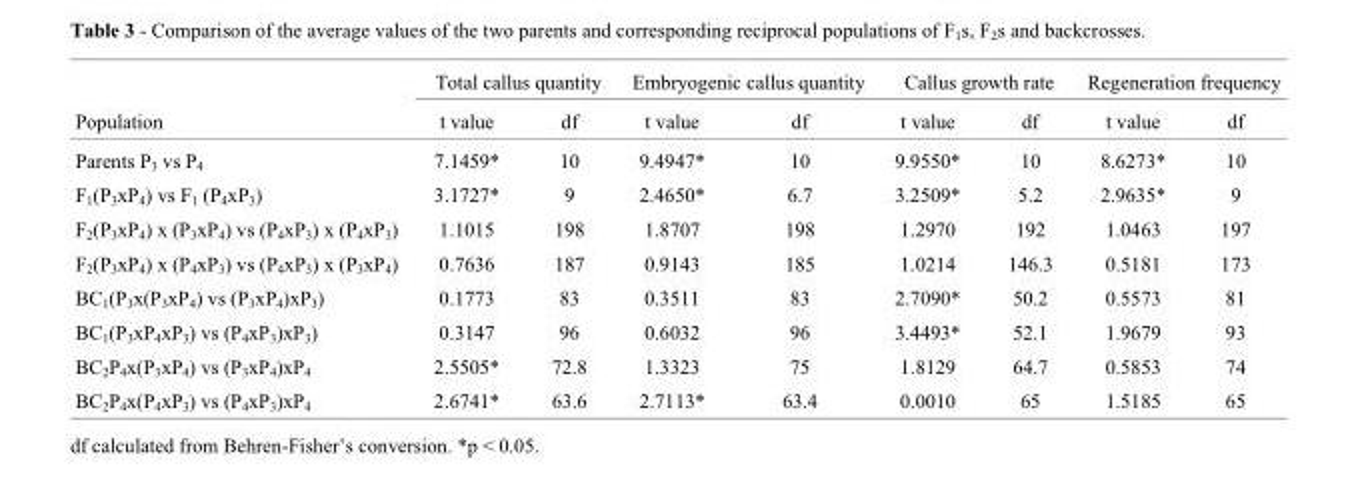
<table><thead><tr><td rowspan="2">Population</td><td colspan="2">Total callus quantity</td><td colspan="2">Embryogenic callus quantity</td><td colspan="2">Callus growth rate</td><td colspan="2">Regeneration frequency</td></tr><tr><td>t value</td><td>df</td><td>t value</td><td>df</td><td>t value</td><td>df</td><td>t value</td><td>df</td></tr></thead><tbody><tr><td>Parents P<sub>3</sub> vs P<sub>4</sub></td><td>7.1459*</td><td>10</td><td>9.4947*</td><td>10</td><td>9.9550*</td><td>10</td><td>8.6273*</td><td>10</td></tr><tr><td>F<sub>1</sub>(P<sub>3</sub>xP<sub>4</sub>) vs F<sub>1</sub> (P<sub>4</sub>xP<sub>3</sub>)</td><td>3.1727*</td><td>9</td><td>2.4650*</td><td>6.7</td><td>3.2509*</td><td>5.2</td><td>2.9635*</td><td>9</td></tr><tr><td>F<sub>2</sub>(P<sub>3</sub>xP<sub>4</sub>) x (P<sub>3</sub>xP<sub>4</sub>) vs (P<sub>4</sub>xP<sub>3</sub>) x (P<sub>4</sub>xP<sub>3</sub>)</td><td>1.1015</td><td>198</td><td>1.8707</td><td>198</td><td>1.2970</td><td>192</td><td>1.0463</td><td>197</td></tr><tr><td>F<sub>2</sub>(P<sub>3</sub>xP<sub>4</sub>) x (P<sub>4</sub>xP<sub>3</sub>) vs (P<sub>4</sub>xP<sub>3</sub>) x (P<sub>3</sub>xP<sub>4</sub>)</td><td>0.7636</td><td>187</td><td>0.9143</td><td>185</td><td>1.0214</td><td>146.3</td><td>0.5181</td><td>173</td></tr><tr><td>BC<sub>1</sub>(P<sub>3</sub>x(P<sub>3</sub>xP<sub>4</sub>) vs (P<sub>3</sub>xP<sub>4</sub>)xP<sub>3</sub>)</td><td>0.1773</td><td>83</td><td>0.3511</td><td>83</td><td>2.7090*</td><td>50.2</td><td>0.5573</td><td>81</td></tr><tr><td>BC<sub>1</sub>(P<sub>3</sub>xP<sub>4</sub>xP<sub>3</sub>) vs (P<sub>4</sub>xP<sub>3</sub>)xP<sub>3</sub>)</td><td>0.3147</td><td>96</td><td>0.6032</td><td>96</td><td>3.4493*</td><td>52.1</td><td>1.9679</td><td>93</td></tr><tr><td>BC<sub>2</sub>P<sub>4</sub>x(P<sub>3</sub>xP<sub>4</sub>) vs (P<sub>3</sub>xP<sub>4</sub>)xP<sub>4</sub></td><td>2.5505*</td><td>72.8</td><td>1.3323</td><td>75</td><td>1.8129</td><td>64.7</td><td>0.5853</td><td>74</td></tr><tr><td>BC<sub>2</sub>P<sub>4</sub>x(P<sub>4</sub>xP<sub>3</sub>) vs (P<sub>4</sub>xP<sub>3</sub>)xP<sub>4</sub></td><td>2.6741*</td><td>63.6</td><td>2.7113*</td><td>63.4</td><td>0.0010</td><td>65</td><td>1.5185</td><td>65</td></tr></tbody></table>